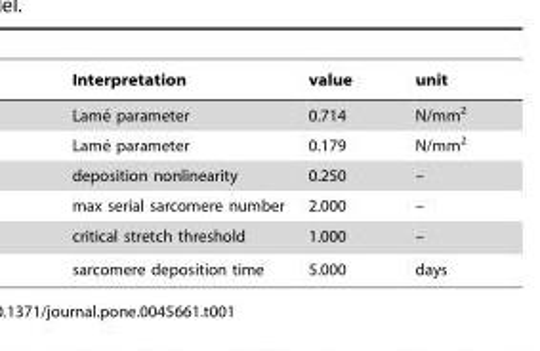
<table><thead><tr><td>Interpretation</td><td>value</td><td>unit</td></tr></thead><tbody><tr><td>Lame´ parameter</td><td>0.714</td><td>N/mm<sup>2</sup></td></tr><tr><td>Lame´ parameter</td><td>0.179</td><td>N/mm<sup>2</sup></td></tr><tr><td>deposition nonlinearity</td><td>0.250</td><td>–</td></tr><tr><td>max serial sarcomere number</td><td>2.000</td><td>–</td></tr><tr><td>critical stretch threshold</td><td>1.000</td><td>–</td></tr><tr><td>sarcomere deposition time</td><td>5.000</td><td>days</td></tr></tbody></table>